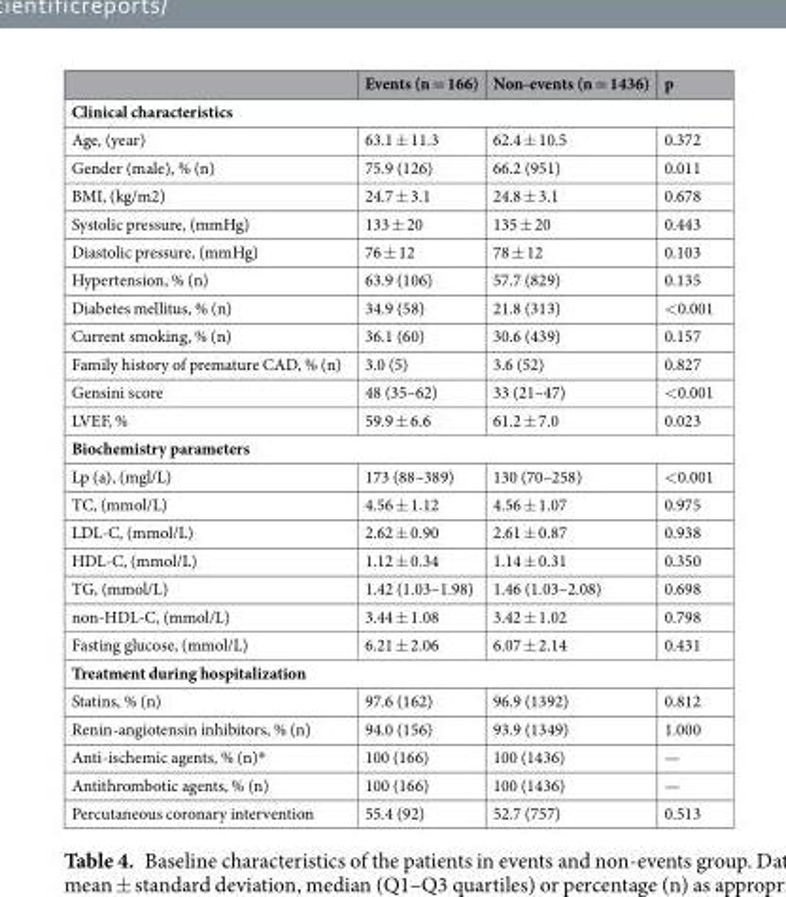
<table><thead><tr><td></td><td>Events (n = 166)</td><td>Non-events (n = 1436)</td><td>p</td></tr></thead><tbody><tr><td colspan="4">Clinical characteristics</td></tr><tr><td>Age, (year)</td><td>63.1 ± 11.3</td><td>62.4 ± 10.5</td><td>0.372</td></tr><tr><td>Gender (male), % (n)</td><td>75.9 (126)</td><td>66.2 (951)</td><td>0.011</td></tr><tr><td>BMI, (kg/m2)</td><td>24.7 ± 3.1</td><td>24.8 ± 3.1</td><td>0.678</td></tr><tr><td>Systolic pressure, (mmHg)</td><td>133 ± 20</td><td>135 ± 20</td><td>0.443</td></tr><tr><td>Diastolic pressure, (mmHg)</td><td>76 ± 12</td><td>78 ± 12</td><td>0.103</td></tr><tr><td>Hypertension, % (n)</td><td>63.9 (106)</td><td>57.7 (829)</td><td>0.135</td></tr><tr><td>Diabetes mellitus, % (n)</td><td>34.9 (58)</td><td>21.8 (313)</td><td>&lt;0.001</td></tr><tr><td>Current smoking, % (n)</td><td>36.1 (60)</td><td>30.6 (439)</td><td>0.157</td></tr><tr><td>Family history of premature CAD, % (n)</td><td>3.0 (5)</td><td>3.6 (52)</td><td>0.827</td></tr><tr><td>Gensini score</td><td>48 (35–62)</td><td>33 (21–47)</td><td>&lt;0.001</td></tr><tr><td>LVEF, %</td><td>59.9 ± 6.6</td><td>61.2 ± 7.0</td><td>0.023</td></tr><tr><td colspan="4">Biochemistry parameters</td></tr><tr><td>Lp (a), (mgl/L)</td><td>173 (88–389)</td><td>130 (70–258)</td><td>&lt;0.001</td></tr><tr><td>TC, (mmol/L)</td><td>4.56 ± 1.12</td><td>4.56 ± 1.07</td><td>0.975</td></tr><tr><td>LDL-C, (mmol/L)</td><td>2.62 ± 0.90</td><td>2.61 ± 0.87</td><td>0.938</td></tr><tr><td>HDL-C, (mmol/L)</td><td>1.12 ± 0.34</td><td>1.14 ± 0.31</td><td>0.350</td></tr><tr><td>TG, (mmol/L)</td><td>1.42 (1.03–1.98)</td><td>1.46 (1.03–2.08)</td><td>0.698</td></tr><tr><td>non-HDL-C, (mmol/L)</td><td>3.44 ± 1.08</td><td>3.42 ± 1.02</td><td>0.798</td></tr><tr><td>Fasting glucose, (mmol/L)</td><td>6.21 ± 2.06</td><td>6.07 ± 2.14</td><td>0.431</td></tr><tr><td colspan="4">Treatment during hospitalization</td></tr><tr><td>Statins, % (n)</td><td>97.6 (162)</td><td>96.9 (1392)</td><td>0.812</td></tr><tr><td>Renin-angiotensin inhibitors, % (n)</td><td>94.0 (156)</td><td>93.9 (1349)</td><td>1.000</td></tr><tr><td>Anti-ischemic agents, % (n)*</td><td>100 (166)</td><td>100 (1436)</td><td>—</td></tr><tr><td>Antithrombotic agents, % (n)</td><td>100 (166)</td><td>100 (1436)</td><td>—</td></tr><tr><td>Percutaneous coronary intervention</td><td>55.4 (92)</td><td>52.7 (757)</td><td>0.513</td></tr></tbody></table>